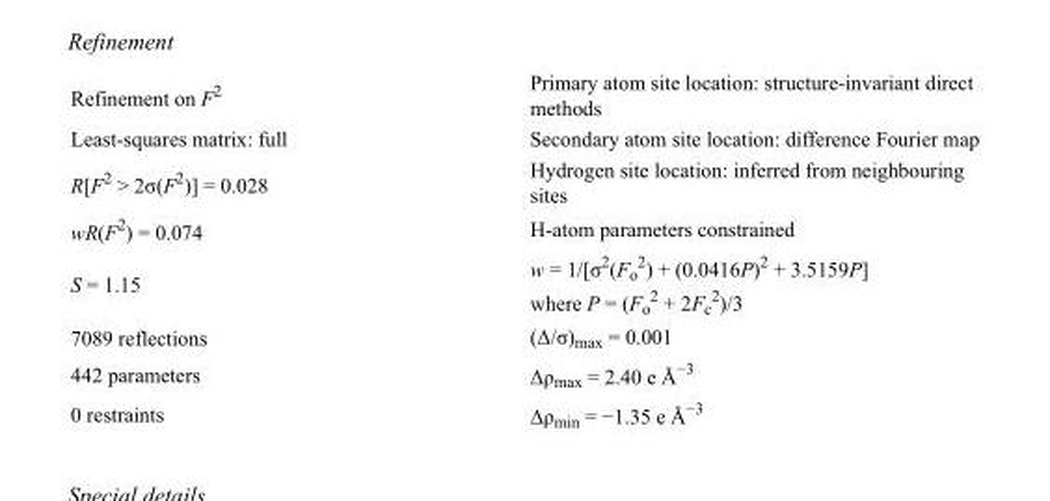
<table><tbody><tr><td>Refinement on F<sup>2</sup></td><td>Primary atom site location: structure-invariant direct methods</td></tr><tr><td>Least-squares matrix: full</td><td>Secondary atom site location: difference Fourier map</td></tr><tr><td>R[F<sup>2</sup> &gt; 2σ(F<sup>2</sup>)] = 0.028</td><td>Hydrogen site location: inferred from neighbouring sites</td></tr><tr><td>wR(F<sup>2</sup>) = 0.074</td><td>H-atom parameters constrained</td></tr><tr><td>S = 1.15</td><td>w = 1/[σ<sup>2</sup>(F<sub>o</sub> <sup>2</sup>) + (0.0416P)<sup>2</sup> + 3.5159P] where P = (F<sub>o</sub> <sup>2</sup> + 2F<sub>c</sub> <sup>2</sup>)/3</td></tr><tr><td>7089 reflections</td><td>(Δ/σ)<sub>max</sub> = 0.001</td></tr><tr><td>442 parameters</td><td>Δρ<sub>max</sub> = 2.40 e Å<sup>−3</sup></td></tr><tr><td>0 restraints</td><td>Δρ<sub>min</sub> = −1.35 e Å<sup>−3</sup></td></tr></tbody></table>